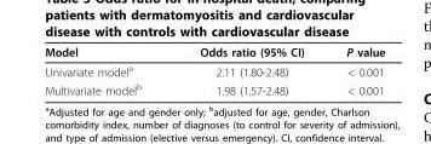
<table><thead><tr><td>Model</td><td>Odds ratio (95% CI)</td><td>P value</td></tr></thead><tbody><tr><td>Univariate model<sup>a</sup></td><td>2.11 (1.80-2.48)</td><td>&lt; 0.001</td></tr><tr><td>Multivariate model<sup>b</sup></td><td>1.98 (1.57-2.48)</td><td>&lt; 0.001</td></tr></tbody></table>